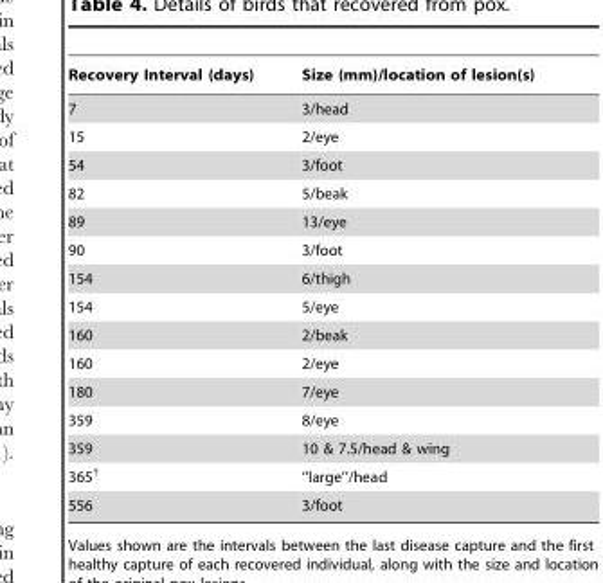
<table><thead><tr><td>Recovery Interval (days)</td><td>Size (mm)/location of lesion(s)</td></tr></thead><tbody><tr><td>7</td><td>3/head</td></tr><tr><td>15</td><td>2/eye</td></tr><tr><td>54</td><td>3/foot</td></tr><tr><td>82</td><td>5/beak</td></tr><tr><td>89</td><td>13/eye</td></tr><tr><td>90</td><td>3/foot</td></tr><tr><td>154</td><td>6/thigh</td></tr><tr><td>154</td><td>5/eye</td></tr><tr><td>160</td><td>2/beak</td></tr><tr><td>160</td><td>2/eye</td></tr><tr><td>180</td><td>7/eye</td></tr><tr><td>359</td><td>8/eye</td></tr><tr><td>359</td><td>10 &amp; 7.5/head &amp; wing</td></tr><tr><td>365†</td><td>‘‘large’’/head</td></tr><tr><td>556</td><td>3/foot</td></tr></tbody></table>